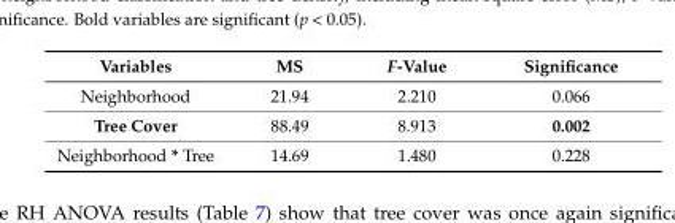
<table><thead><tr><td>Variables</td><td>MS</td><td>F-Value</td><td>Significance</td></tr></thead><tbody><tr><td>Neighborhood</td><td>21.94</td><td>2.210</td><td>0.066</td></tr><tr><td>Tree Cover</td><td>88.49</td><td>8.913</td><td>0.002</td></tr><tr><td>Neighborhood * Tree</td><td>14.69</td><td>1.480</td><td>0.228</td></tr></tbody></table>